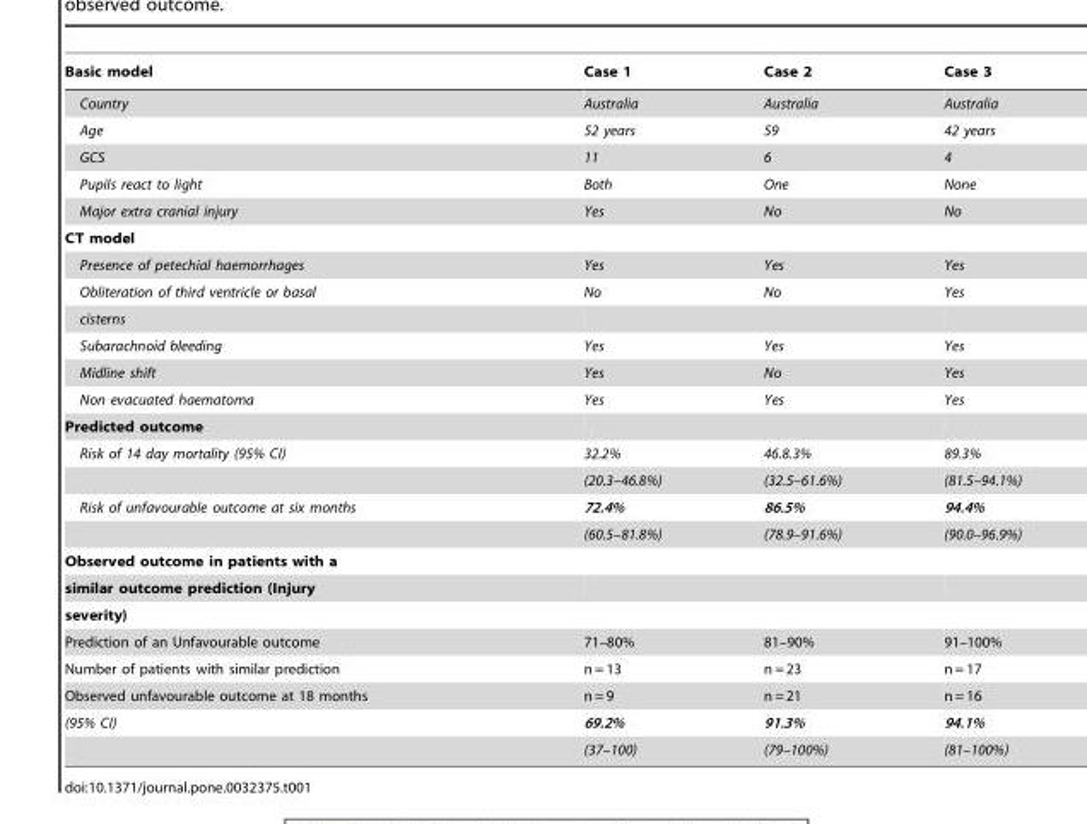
<table><thead><tr><td>Basic model</td><td>Case 1</td><td>Case 2</td><td>Case 3</td></tr></thead><tbody><tr><td>Country</td><td>Australia</td><td>Australia</td><td>Australia</td></tr><tr><td>Age</td><td>52 years</td><td>59</td><td>42 years</td></tr><tr><td>GCS</td><td>11</td><td>6</td><td>4</td></tr><tr><td>Pupils react to light</td><td>Both</td><td>One</td><td>None</td></tr><tr><td>Major extra cranial injury</td><td>Yes</td><td>No</td><td>No</td></tr><tr><td colspan="4">CT model</td></tr><tr><td>Presence of petechial haemorrhages</td><td>Yes</td><td>Yes</td><td>Yes</td></tr><tr><td>Obliteration of third ventricle or basal</td><td>No</td><td>No</td><td>Yes</td></tr><tr><td colspan="4">cisterns</td></tr><tr><td>Subarachnoid bleeding</td><td>Yes</td><td>Yes</td><td>Yes</td></tr><tr><td>Midline shift</td><td>Yes</td><td>No</td><td>Yes</td></tr><tr><td>Non evacuated haematoma</td><td>Yes</td><td>Yes</td><td>Yes</td></tr><tr><td colspan="4">Predicted outcome</td></tr><tr><td rowspan="2">Risk of 14 day mortality (95% CI)</td><td>32.2%</td><td>46.8.3%</td><td>89.3%</td></tr><tr><td>(20.3–46.8%)</td><td>(32.5–61.6%)</td><td>(81.5–94.1%)</td></tr><tr><td rowspan="2">Risk of unfavourable outcome at six months</td><td>72.4%</td><td>86.5%</td><td>94.4%</td></tr><tr><td>(60.5–81.8%)</td><td>(78.9–91.6%)</td><td>(90.0–96.9%)</td></tr><tr><td colspan="4">Observed outcome in patients with a</td></tr><tr><td colspan="4">similar outcome prediction (Injury</td></tr><tr><td colspan="4">severity)</td></tr><tr><td>Prediction of an Unfavourable outcome</td><td>71–80%</td><td>81–90%</td><td>91–100%</td></tr><tr><td>Number of patients with similar prediction</td><td>n = 13</td><td>n = 23</td><td>n = 17</td></tr><tr><td>Observed unfavourable outcome at 18 months</td><td>n = 9</td><td>n = 21</td><td>n = 16</td></tr><tr><td rowspan="2">(95% CI)</td><td>69.2%</td><td>91.3%</td><td>94.1%</td></tr><tr><td>(37–100)</td><td>(79–100%)</td><td>(81–100%)</td></tr></tbody></table>